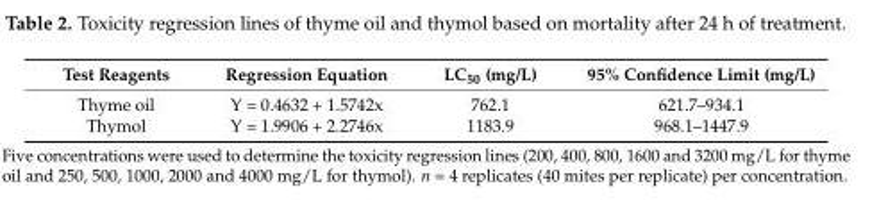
<table><thead><tr><td>Test Reagents</td><td>Regression Equation</td><td>LC<sub>50</sub> (mg/L)</td><td>95% Confidence Limit (mg/L)</td></tr></thead><tbody><tr><td>Thyme oil</td><td>Y = 0.4632 + 1.5742x</td><td>762.1</td><td>621.7–934.1</td></tr><tr><td>Thymol</td><td>Y = 1.9906 + 2.2746x</td><td>1183.9</td><td>968.1–1447.9</td></tr></tbody></table>